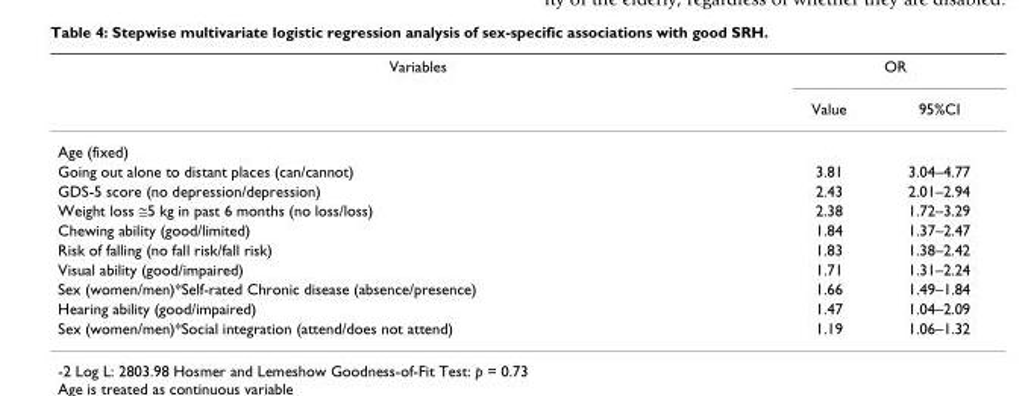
<table><thead><tr><td rowspan="2">Variables</td><td colspan="2">OR</td></tr><tr><td>Value</td><td>95%CI</td></tr></thead><tbody><tr><td colspan="3">Age (fixed)</td></tr><tr><td>Going out alone to distant places (can/cannot)</td><td>3.81</td><td>3.04–4.77</td></tr><tr><td>GDS-5 score (no depression/depression)</td><td>2.43</td><td>2.01–2.94</td></tr><tr><td>Weight loss ≅5 kg in past 6 months (no loss/loss)</td><td>2.38</td><td>1.72–3.29</td></tr><tr><td>Chewing ability (good/limited)</td><td>1.84</td><td>1.37–2.47</td></tr><tr><td>Risk of falling (no fall risk/fall risk)</td><td>1.83</td><td>1.38–2.42</td></tr><tr><td>Visual ability (good/impaired)</td><td>1.71</td><td>1.31–2.24</td></tr><tr><td>Sex (women/men)*Self-rated Chronic disease (absence/presence)</td><td>1.66</td><td>1.49–1.84</td></tr><tr><td>Hearing ability (good/impaired)</td><td>1.47</td><td>1.04–2.09</td></tr><tr><td>Sex (women/men)*Social integration (attend/does not attend)</td><td>1.19</td><td>1.06–1.32</td></tr></tbody></table>